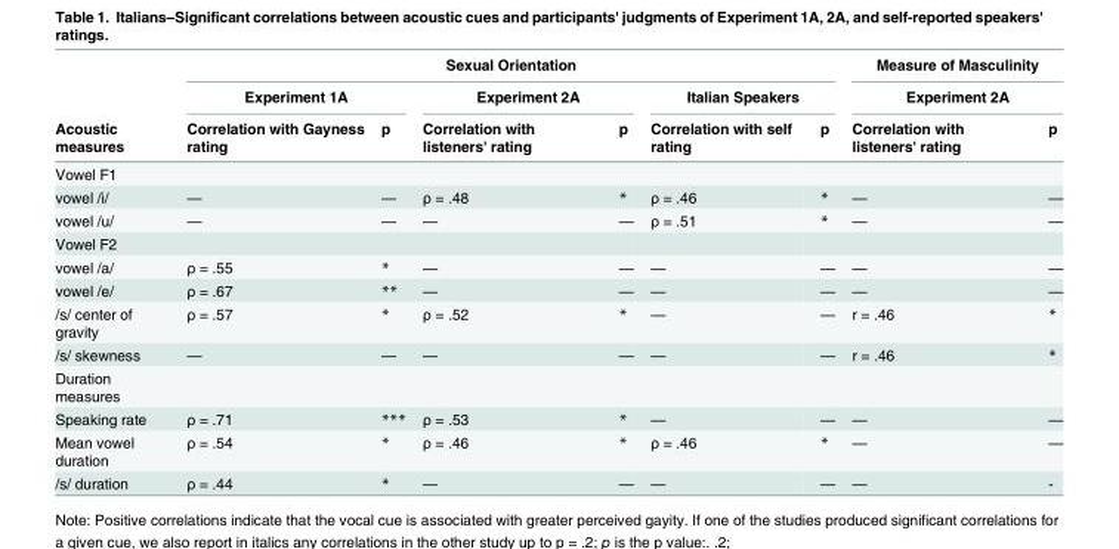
<table><thead><tr><td rowspan="3">Acoustic measures</td><td colspan="6">Sexual Orientation</td><td rowspan="2" colspan="2">Measure of Masculinity Experiment 2A</td></tr><tr><td colspan="2">Experiment 1A</td><td colspan="2">Experiment 2A</td><td colspan="2">Italian Speakers</td></tr><tr><td>Correlation with Gayness rating</td><td>p</td><td>Correlation with listeners&#x27; rating</td><td>p</td><td>Correlation with self rating</td><td>p</td><td>Correlation with listeners&#x27; rating</td><td>p</td></tr></thead><tbody><tr><td colspan="9">Vowel F1</td></tr><tr><td>vowel /i/</td><td>—</td><td>—</td><td>ρ = .48</td><td>*</td><td>ρ = .46</td><td>*</td><td>—</td><td>—</td></tr><tr><td>vowel /u/</td><td>—</td><td>—</td><td>—</td><td>—</td><td>ρ = .51</td><td>*</td><td>—</td><td>—</td></tr><tr><td colspan="9">Vowel F2</td></tr><tr><td>vowel /a/</td><td>ρ = .55</td><td>*</td><td>—</td><td>—</td><td>—</td><td>—</td><td>—</td><td>—</td></tr><tr><td>vowel /e/</td><td>ρ = .67</td><td>**</td><td>—</td><td>—</td><td>—</td><td>—</td><td>—</td><td>—</td></tr><tr><td>/s/ center of gravity</td><td>ρ = .57</td><td>*</td><td>ρ = .52</td><td>*</td><td>—</td><td>—</td><td>r = .46</td><td>*</td></tr><tr><td>/s/ skewness</td><td>—</td><td>—</td><td>—</td><td>—</td><td>—</td><td>—</td><td>r = .46</td><td>*</td></tr><tr><td colspan="9">Duration measures</td></tr><tr><td>Speaking rate</td><td>ρ = .71</td><td>***</td><td>ρ = .53</td><td>*</td><td>—</td><td>—</td><td>—</td><td>—</td></tr><tr><td>Mean vowel duration</td><td>ρ = .54</td><td>*</td><td>ρ = .46</td><td>*</td><td>ρ = .46</td><td>*</td><td>—</td><td>—</td></tr><tr><td>/s/ duration</td><td>ρ = .44</td><td>*</td><td>—</td><td>—</td><td>—</td><td>—</td><td>—</td><td>-</td></tr></tbody></table>